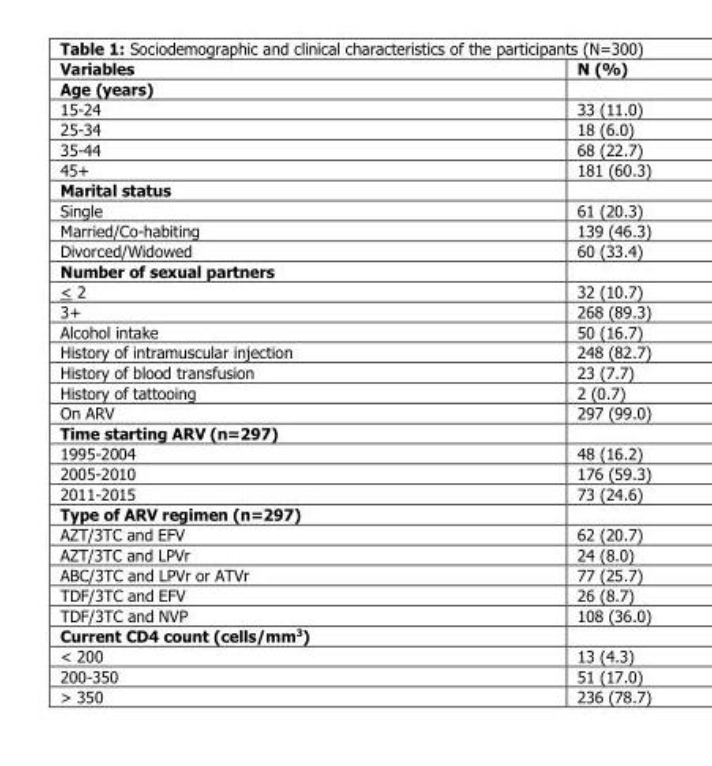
<table><thead><tr><td>Variables</td><td>N (%)</td></tr></thead><tbody><tr><td colspan="2">Age (years)</td></tr><tr><td>15-24</td><td>33 (11.0)</td></tr><tr><td>25-34</td><td>18 (6.0)</td></tr><tr><td>35-44</td><td>68 (22.7)</td></tr><tr><td>45+</td><td>181 (60.3)</td></tr><tr><td colspan="2">Marital status</td></tr><tr><td>Single</td><td>61 (20.3)</td></tr><tr><td>Married/Co-habiting</td><td>139 (46.3)</td></tr><tr><td>Divorced/Widowed</td><td>60 (33.4)</td></tr><tr><td colspan="2">Number of sexual partners</td></tr><tr><td>&lt; 2</td><td>32 (10.7)</td></tr><tr><td>3+</td><td>268 (89.3)</td></tr><tr><td>Alcohol intake</td><td>50 (16.7)</td></tr><tr><td>History of intramuscular injection</td><td>248 (82.7)</td></tr><tr><td>History of blood transfusion</td><td>23 (7.7)</td></tr><tr><td>History of tattooing</td><td>2 (0.7)</td></tr><tr><td>On ARV</td><td>297 (99.0)</td></tr><tr><td colspan="2">Time starting ARV (n=297)</td></tr><tr><td>1995-2004</td><td>48 (16.2)</td></tr><tr><td>2005-2010</td><td>176 (59.3)</td></tr><tr><td>2011-2015</td><td>73 (24.6)</td></tr><tr><td colspan="2">Type of ARV regimen (n=297)</td></tr><tr><td>AZT/3TC and EFV</td><td>62 (20.7)</td></tr><tr><td>AZT/3TC and LPVr</td><td>24 (8.0)</td></tr><tr><td>ABC/3TC and LPVr or ATVr</td><td>77 (25.7)</td></tr><tr><td>TDF/3TC and EFV</td><td>26 (8.7)</td></tr><tr><td>TDF/3TC and NVP</td><td>108 (36.0)</td></tr><tr><td colspan="2">Current CD4 count (cells/mm<sup>3</sup>)</td></tr><tr><td>˂ 200</td><td>13 (4.3)</td></tr><tr><td>200-350</td><td>51 (17.0)</td></tr><tr><td>˃ 350</td><td>236 (78.7)</td></tr></tbody></table>